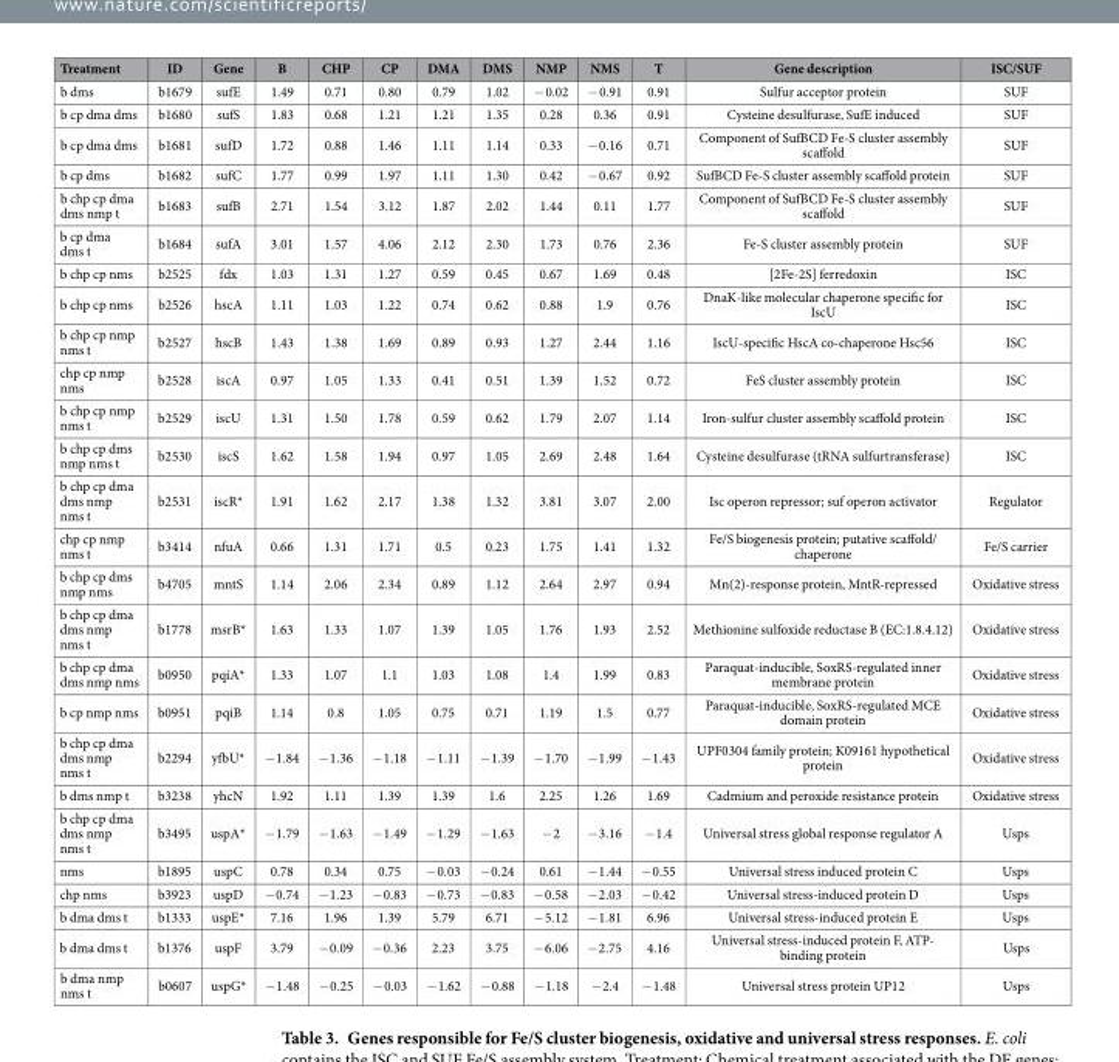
<table><thead><tr><td>Treatment</td><td>ID</td><td>Gene</td><td>B</td><td>CHP</td><td>CP</td><td>DMA</td><td>DMS</td><td>NMP</td><td>NMS</td><td>T</td><td>Gene description</td><td>ISC/SUF</td></tr></thead><tbody><tr><td>b dms</td><td>b1679</td><td>sufE</td><td>1.49</td><td>0.71</td><td>0.80</td><td>0.79</td><td>1.02</td><td>− 0.02</td><td>− 0.91</td><td>0.91</td><td>Sulfur acceptor protein</td><td>SUF</td></tr><tr><td>b cp dma dms</td><td>b1680</td><td>sufS</td><td>1.83</td><td>0.68</td><td>1.21</td><td>1.21</td><td>1.35</td><td>0.28</td><td>0.36</td><td>0.91</td><td>Cysteine desulfurase, SufE induced</td><td>SUF</td></tr><tr><td>b cp dma dms</td><td>b1681</td><td>sufD</td><td>1.72</td><td>0.88</td><td>1.46</td><td>1.11</td><td>1.14</td><td>0.33</td><td>− 0.16</td><td>0.71</td><td>Component of SufBCD Fe-S cluster assembly scaffold</td><td>SUF</td></tr><tr><td>b cp dms</td><td>b1682</td><td>sufC</td><td>1.77</td><td>0.99</td><td>1.97</td><td>1.11</td><td>1.30</td><td>0.42</td><td>− 0.67</td><td>0.92</td><td>SufBCD Fe-S cluster assembly scaffold protein</td><td>SUF</td></tr><tr><td>b chp cp dma dms nmp t</td><td>b1683</td><td>sufB</td><td>2.71</td><td>1.54</td><td>3.12</td><td>1.87</td><td>2.02</td><td>1.44</td><td>0.11</td><td>1.77</td><td>Component of SufBCD Fe-S cluster assembly scaffold</td><td>SUF</td></tr><tr><td>b cp dma dms t</td><td>b1684</td><td>sufA</td><td>3.01</td><td>1.57</td><td>4.06</td><td>2.12</td><td>2.30</td><td>1.73</td><td>0.76</td><td>2.36</td><td>Fe-S cluster assembly protein</td><td>SUF</td></tr><tr><td>b chp cp nms</td><td>b2525</td><td>fdx</td><td>1.03</td><td>1.31</td><td>1.27</td><td>0.59</td><td>0.45</td><td>0.67</td><td>1.69</td><td>0.48</td><td>[2Fe-2S] ferredoxin</td><td>ISC</td></tr><tr><td>b chp cp nms</td><td>b2526</td><td>hscA</td><td>1.11</td><td>1.03</td><td>1.22</td><td>0.74</td><td>0.62</td><td>0.88</td><td>1.9</td><td>0.76</td><td>DnaK-like molecular chaperone specific for IscU</td><td>ISC</td></tr><tr><td>b chp cp nmp nms t</td><td>b2527</td><td>hscB</td><td>1.43</td><td>1.38</td><td>1.69</td><td>0.89</td><td>0.93</td><td>1.27</td><td>2.44</td><td>1.16</td><td>IscU-specific HscA co-chaperone Hsc56</td><td>ISC</td></tr><tr><td>chp cp nmp nms</td><td>b2528</td><td>iscA</td><td>0.97</td><td>1.05</td><td>1.33</td><td>0.41</td><td>0.51</td><td>1.39</td><td>1.52</td><td>0.72</td><td>FeS cluster assembly protein</td><td>ISC</td></tr><tr><td>b chp cp nmp nms t</td><td>b2529</td><td>iscU</td><td>1.31</td><td>1.50</td><td>1.78</td><td>0.59</td><td>0.62</td><td>1.79</td><td>2.07</td><td>1.14</td><td>Iron-sulfur cluster assembly scaffold protein</td><td>ISC</td></tr><tr><td>b chp cp dms nmp nms t</td><td>b2530</td><td>iscS</td><td>1.62</td><td>1.58</td><td>1.94</td><td>0.97</td><td>1.05</td><td>2.69</td><td>2.48</td><td>1.64</td><td>Cysteine desulfurase (tRNA sulfurtransferase)</td><td>ISC</td></tr><tr><td>b chp cp dma dms nmp nms t</td><td>b2531</td><td>iscR*</td><td>1.91</td><td>1.62</td><td>2.17</td><td>1.38</td><td>1.32</td><td>3.81</td><td>3.07</td><td>2.00</td><td>Isc operon repressor; suf operon activator</td><td>Regulator</td></tr><tr><td>chp cp nmp nms t</td><td>b3414</td><td>nfuA</td><td>0.66</td><td>1.31</td><td>1.71</td><td>0.5</td><td>0.23</td><td>1.75</td><td>1.41</td><td>1.32</td><td>Fe/S biogenesis protein; putative scaffold/ chaperone</td><td>Fe/S carrier</td></tr><tr><td>b chp cp dms nmp nms</td><td>b4705</td><td>mntS</td><td>1.14</td><td>2.06</td><td>2.34</td><td>0.89</td><td>1.12</td><td>2.64</td><td>2.97</td><td>0.94</td><td>Mn(2)-response protein, MntR-repressed</td><td>Oxidative stress</td></tr><tr><td>b chp cp dma dms nmp nms t</td><td>b1778</td><td>msrB*</td><td>1.63</td><td>1.33</td><td>1.07</td><td>1.39</td><td>1.05</td><td>1.76</td><td>1.93</td><td>2.52</td><td>Methionine sulfoxide reductase B (EC:1.8.4.12)</td><td>Oxidative stress</td></tr><tr><td>b chp cp dma dms nmp nms</td><td>b0950</td><td>pqiA*</td><td>1.33</td><td>1.07</td><td>1.1</td><td>1.03</td><td>1.08</td><td>1.4</td><td>1.99</td><td>0.83</td><td>Paraquat-inducible, SoxRS-regulated inner membrane protein</td><td>Oxidative stress</td></tr><tr><td>b cp nmp nms</td><td>b0951</td><td>pqiB</td><td>1.14</td><td>0.8</td><td>1.05</td><td>0.75</td><td>0.71</td><td>1.19</td><td>1.5</td><td>0.77</td><td>Paraquat-inducible, SoxRS-regulated MCE domain protein</td><td>Oxidative stress</td></tr><tr><td>b chp cp dma dms nmp nms t</td><td>b2294</td><td>yfbU*</td><td>− 1.84</td><td>− 1.36</td><td>− 1.18</td><td>− 1.11</td><td>− 1.39</td><td>− 1.70</td><td>− 1.99</td><td>− 1.43</td><td>UPF0304 family protein; K09161 hypothetical protein</td><td>Oxidative stress</td></tr><tr><td>b dms nmp t</td><td>b3238</td><td>yhcN</td><td>1.92</td><td>1.11</td><td>1.39</td><td>1.39</td><td>1.6</td><td>2.25</td><td>1.26</td><td>1.69</td><td>Cadmium and peroxide resistance protein</td><td>Oxidative stress</td></tr><tr><td>b chp cp dma dms nmp nms t</td><td>b3495</td><td>uspA*</td><td>− 1.79</td><td>− 1.63</td><td>− 1.49</td><td>− 1.29</td><td>− 1.63</td><td>− 2</td><td>− 3.16</td><td>− 1.4</td><td>Universal stress global response regulator A</td><td>Usps</td></tr><tr><td>nms</td><td>b1895</td><td>uspC</td><td>0.78</td><td>0.34</td><td>0.75</td><td>− 0.03</td><td>− 0.24</td><td>0.61</td><td>− 1.44</td><td>− 0.55</td><td>Universal stress induced protein C</td><td>Usps</td></tr><tr><td>chp nms</td><td>b3923</td><td>uspD</td><td>− 0.74</td><td>− 1.23</td><td>− 0.83</td><td>− 0.73</td><td>− 0.83</td><td>− 0.58</td><td>− 2.03</td><td>− 0.42</td><td>Universal stress-induced protein D</td><td>Usps</td></tr><tr><td>b dma dms t</td><td>b1333</td><td>uspE*</td><td>7.16</td><td>1.96</td><td>1.39</td><td>5.79</td><td>6.71</td><td>− 5.12</td><td>− 1.81</td><td>6.96</td><td>Universal stress-induced protein E</td><td>Usps</td></tr><tr><td>b dma dms t</td><td>b1376</td><td>uspF</td><td>3.79</td><td>− 0.09</td><td>− 0.36</td><td>2.23</td><td>3.75</td><td>− 6.06</td><td>− 2.75</td><td>4.16</td><td>Universal stress-induced protein F, ATP- binding protein</td><td>Usps</td></tr><tr><td>b dma nmp nms t</td><td>b0607</td><td>uspG*</td><td>− 1.48</td><td>− 0.25</td><td>− 0.03</td><td>− 1.62</td><td>− 0.88</td><td>− 1.18</td><td>− 2.4</td><td>− 1.48</td><td>Universal stress protein UP12</td><td>Usps</td></tr></tbody></table>